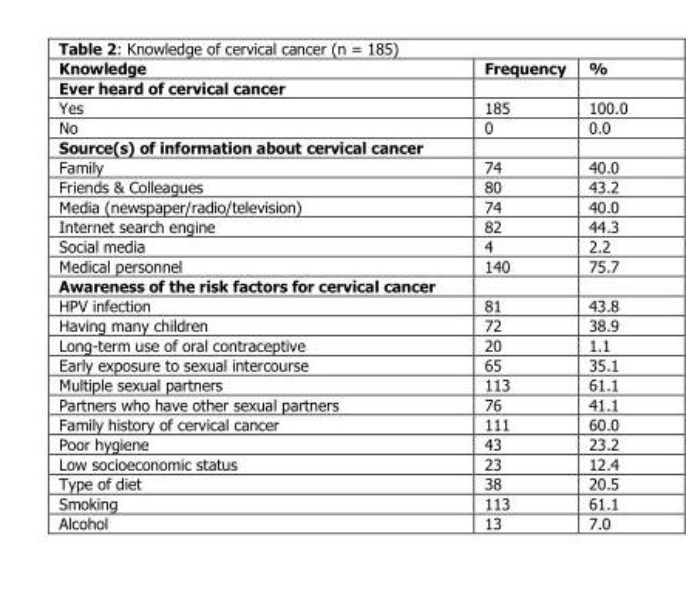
<table><thead><tr><td>Knowledge</td><td>Frequency</td><td>%</td></tr></thead><tbody><tr><td colspan="3">Ever heard of cervical cancer</td></tr><tr><td>Yes</td><td>185</td><td>100.0</td></tr><tr><td>No</td><td>0</td><td>0.0</td></tr><tr><td colspan="3">Source(s) of information about cervical cancer</td></tr><tr><td>Family</td><td>74</td><td>40.0</td></tr><tr><td>Friends &amp; Colleagues</td><td>80</td><td>43.2</td></tr><tr><td>Media (newspaper/radio/television)</td><td>74</td><td>40.0</td></tr><tr><td>Internet search engine</td><td>82</td><td>44.3</td></tr><tr><td>Social media</td><td>4</td><td>2.2</td></tr><tr><td>Medical personnel</td><td>140</td><td>75.7</td></tr><tr><td colspan="3">Awareness of the risk factors for cervical cancer</td></tr><tr><td>HPV infection</td><td>81</td><td>43.8</td></tr><tr><td>Having many children</td><td>72</td><td>38.9</td></tr><tr><td>Long-term use of oral contraceptive</td><td>20</td><td>1.1</td></tr><tr><td>Early exposure to sexual intercourse</td><td>65</td><td>35.1</td></tr><tr><td>Multiple sexual partners</td><td>113</td><td>61.1</td></tr><tr><td>Partners who have other sexual partners</td><td>76</td><td>41.1</td></tr><tr><td>Family history of cervical cancer</td><td>111</td><td>60.0</td></tr><tr><td>Poor hygiene</td><td>43</td><td>23.2</td></tr><tr><td>Low socioeconomic status</td><td>23</td><td>12.4</td></tr><tr><td>Type of diet</td><td>38</td><td>20.5</td></tr><tr><td>Smoking</td><td>113</td><td>61.1</td></tr><tr><td>Alcohol</td><td>13</td><td>7.0</td></tr></tbody></table>